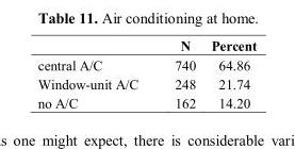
<table><thead><tr><td></td><td>N</td><td>Percent</td></tr></thead><tbody><tr><td>central A/C</td><td>740</td><td>64.86</td></tr><tr><td>Window-unit A/C</td><td>248</td><td>21.74</td></tr><tr><td>no A/C</td><td>162</td><td>14.20</td></tr></tbody></table>